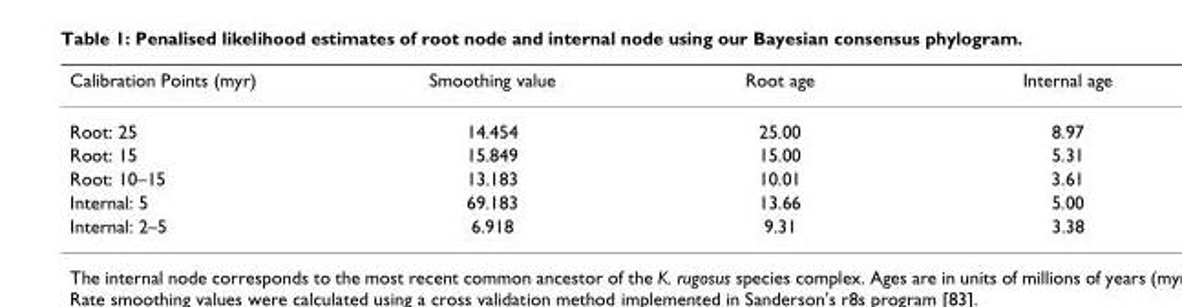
<table><thead><tr><td>Calibration Points (myr)</td><td>Smoothing value</td><td>Root age</td><td>Internal age</td></tr></thead><tbody><tr><td>Root: 25</td><td>14.454</td><td>25.00</td><td>8.97</td></tr><tr><td>Root: 15</td><td>15.849</td><td>15.00</td><td>5.31</td></tr><tr><td>Root: 10–15</td><td>13.183</td><td>10.01</td><td>3.61</td></tr><tr><td>Internal: 5</td><td>69.183</td><td>13.66</td><td>5.00</td></tr><tr><td>Internal: 2–5</td><td>6.918</td><td>9.31</td><td>3.38</td></tr></tbody></table>